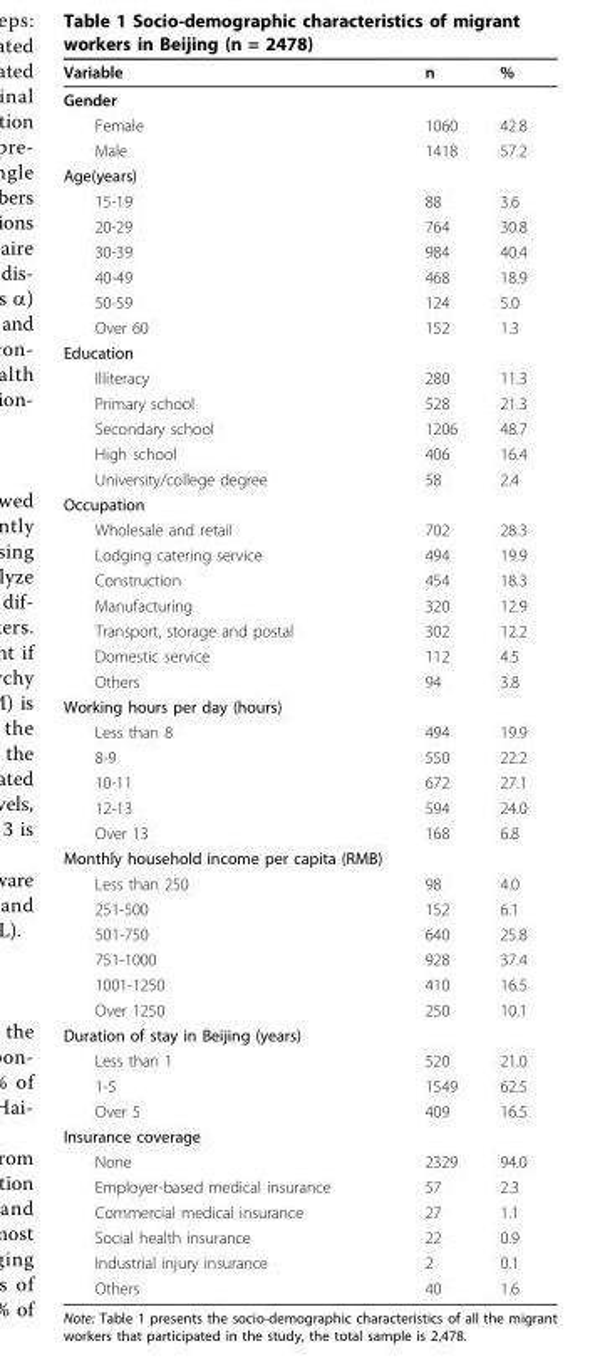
<table><thead><tr><td>Variable</td><td>n</td><td>%</td></tr></thead><tbody><tr><td colspan="3">Gender</td></tr><tr><td>Female</td><td>1060</td><td>42.8</td></tr><tr><td>Male</td><td>1418</td><td>57.2</td></tr><tr><td colspan="3">Age(years)</td></tr><tr><td>15-19</td><td>88</td><td>3.6</td></tr><tr><td>20-29</td><td>764</td><td>30.8</td></tr><tr><td>30-39</td><td>984</td><td>40.4</td></tr><tr><td>40-49</td><td>468</td><td>18.9</td></tr><tr><td>50-59</td><td>124</td><td>5.0</td></tr><tr><td>Over 60</td><td>152</td><td>1.3</td></tr><tr><td colspan="3">Education</td></tr><tr><td>Illiteracy</td><td>280</td><td>11.3</td></tr><tr><td>Primary school</td><td>528</td><td>21.3</td></tr><tr><td>Secondary school</td><td>1206</td><td>48.7</td></tr><tr><td>High school</td><td>406</td><td>16.4</td></tr><tr><td>University/college degree</td><td>58</td><td>2.4</td></tr><tr><td colspan="3">Occupation</td></tr><tr><td>Wholesale and retail</td><td>702</td><td>28.3</td></tr><tr><td>Lodging catering service</td><td>494</td><td>19.9</td></tr><tr><td>Construction</td><td>454</td><td>18.3</td></tr><tr><td>Manufacturing</td><td>320</td><td>12.9</td></tr><tr><td>Transport, storage and postal</td><td>302</td><td>12.2</td></tr><tr><td>Domestic service</td><td>112</td><td>4.5</td></tr><tr><td>Others</td><td>94</td><td>3.8</td></tr><tr><td colspan="3">Working hours per day (hours)</td></tr><tr><td>Less than 8</td><td>494</td><td>19.9</td></tr><tr><td>8-9</td><td>550</td><td>22.2</td></tr><tr><td>10-11</td><td>672</td><td>27.1</td></tr><tr><td>12-13</td><td>594</td><td>24.0</td></tr><tr><td>Over 13</td><td>168</td><td>6.8</td></tr><tr><td colspan="3">Monthly household income per capita (RMB)</td></tr><tr><td>Less than 250</td><td>98</td><td>4.0</td></tr><tr><td>251-500</td><td>152</td><td>6.1</td></tr><tr><td>501-750</td><td>640</td><td>25.8</td></tr><tr><td>751-1000</td><td>928</td><td>37.4</td></tr><tr><td>1001-1250</td><td>410</td><td>16.5</td></tr><tr><td>Over 1250</td><td>250</td><td>10.1</td></tr><tr><td colspan="3">Duration of stay in Beijing (years)</td></tr><tr><td>Less than 1</td><td>520</td><td>21.0</td></tr><tr><td>1-5</td><td>1549</td><td>62.5</td></tr><tr><td>Over 5</td><td>409</td><td>16.5</td></tr><tr><td colspan="3">Insurance coverage</td></tr><tr><td>None</td><td>2329</td><td>94.0</td></tr><tr><td>Employer-based medical insurance</td><td>57</td><td>2.3</td></tr><tr><td>Commercial medical insurance</td><td>27</td><td>1.1</td></tr><tr><td>Social health insurance</td><td>22</td><td>0.9</td></tr><tr><td>Industrial injury insurance</td><td>2</td><td>0.1</td></tr><tr><td>Others</td><td>40</td><td>1.6</td></tr></tbody></table>